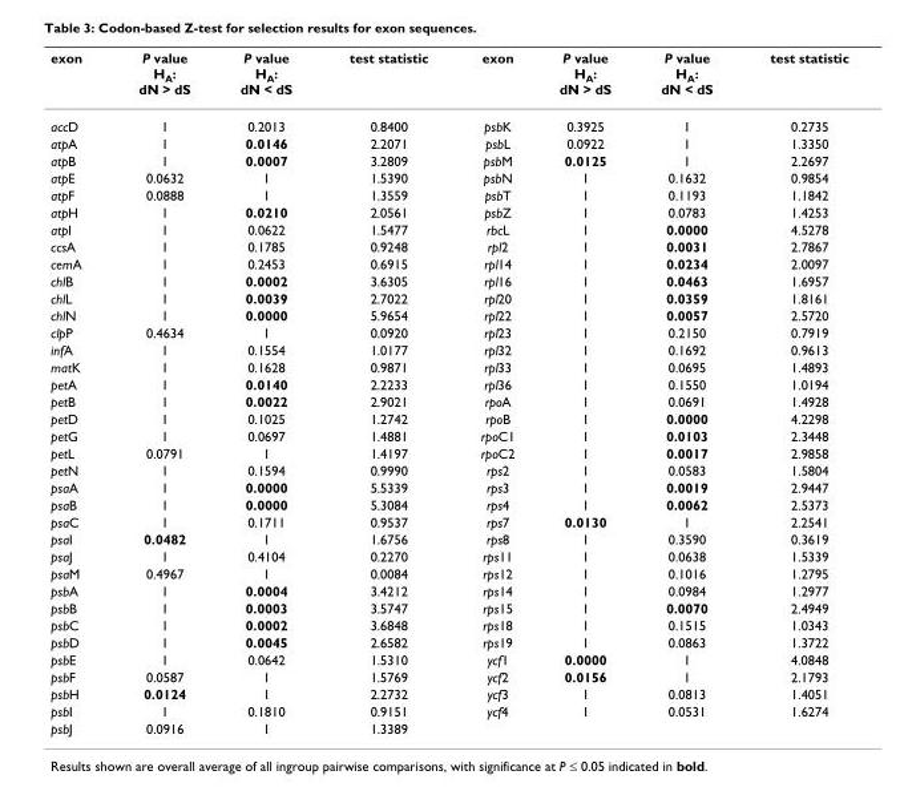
<table><thead><tr><td>exon</td><td>P value H<sub>A</sub>: dN &gt; dS</td><td>P value H<sub>A</sub>: dN &lt; dS</td><td>test statistic</td><td>exon</td><td>P value H<sub>A</sub>: dN &gt; dS</td><td>P value H<sub>A</sub>: dN &lt; dS</td><td>test statistic</td></tr></thead><tbody><tr><td>accD</td><td>1</td><td>0.2013</td><td>0.8400</td><td>psbK</td><td>0.3925</td><td>1</td><td>0.2735</td></tr><tr><td>atpA</td><td>1</td><td>0.0146</td><td>2.2071</td><td>psbL</td><td>0.0922</td><td>1</td><td>1.3350</td></tr><tr><td>atpB</td><td>1</td><td>0.0007</td><td>3.2809</td><td>psbM</td><td>0.0125</td><td>1</td><td>2.2697</td></tr><tr><td>atpE</td><td>0.0632</td><td>1</td><td>1.5390</td><td>psbN</td><td>1</td><td>0.1632</td><td>0.9854</td></tr><tr><td>atpF</td><td>0.0888</td><td>1</td><td>1.3559</td><td>psbT</td><td>1</td><td>0.1193</td><td>1.1842</td></tr><tr><td>atpH</td><td>1</td><td>0.0210</td><td>2.0561</td><td>psbZ</td><td>1</td><td>0.0783</td><td>1.4253</td></tr><tr><td>atpI</td><td>1</td><td>0.0622</td><td>1.5477</td><td>rbcL</td><td>1</td><td>0.0000</td><td>4.5278</td></tr><tr><td>ccsA</td><td>1</td><td>0.1785</td><td>0.9248</td><td>rpl2</td><td>1</td><td>0.0031</td><td>2.7867</td></tr><tr><td>cemA</td><td>1</td><td>0.2453</td><td>0.6915</td><td>rpl14</td><td>1</td><td>0.0234</td><td>2.0097</td></tr><tr><td>chlB</td><td>1</td><td>0.0002</td><td>3.6305</td><td>rpl16</td><td>1</td><td>0.0463</td><td>1.6957</td></tr><tr><td>chlL</td><td>1</td><td>0.0039</td><td>2.7022</td><td>rpl20</td><td>1</td><td>0.0359</td><td>1.8161</td></tr><tr><td>chlN</td><td>1</td><td>0.0000</td><td>5.9654</td><td>rpl22</td><td>1</td><td>0.0057</td><td>2.5720</td></tr><tr><td>clpP</td><td>0.4634</td><td>1</td><td>0.0920</td><td>rpl23</td><td>1</td><td>0.2150</td><td>0.7919</td></tr><tr><td>infA</td><td>1</td><td>0.1554</td><td>1.0177</td><td>rpl32</td><td>1</td><td>0.1692</td><td>0.9613</td></tr><tr><td>matK</td><td>1</td><td>0.1628</td><td>0.9871</td><td>rpl33</td><td>1</td><td>0.0695</td><td>1.4893</td></tr><tr><td>petA</td><td>1</td><td>0.0140</td><td>2.2233</td><td>rpl36</td><td>1</td><td>0.1550</td><td>1.0194</td></tr><tr><td>petB</td><td>1</td><td>0.0022</td><td>2.9021</td><td>rpoA</td><td>1</td><td>0.0691</td><td>1.4928</td></tr><tr><td>petD</td><td>1</td><td>0.1025</td><td>1.2742</td><td>rpoB</td><td>1</td><td>0.0000</td><td>4.2298</td></tr><tr><td>petG</td><td>1</td><td>0.0697</td><td>1.4881</td><td>rpoC1</td><td>1</td><td>0.0103</td><td>2.3448</td></tr><tr><td>petL</td><td>0.0791</td><td>1</td><td>1.4197</td><td>rpoC2</td><td>1</td><td>0.0017</td><td>2.9858</td></tr><tr><td>petN</td><td>1</td><td>0.1594</td><td>0.9990</td><td>rps2</td><td>1</td><td>0.0583</td><td>1.5804</td></tr><tr><td>psaA</td><td>1</td><td>0.0000</td><td>5.5339</td><td>rps3</td><td>1</td><td>0.0019</td><td>2.9447</td></tr><tr><td>psaB</td><td>1</td><td>0.0000</td><td>5.3084</td><td>rps4</td><td>1</td><td>0.0062</td><td>2.5373</td></tr><tr><td>psaC</td><td>1</td><td>0.1711</td><td>0.9537</td><td>rps7</td><td>0.0130</td><td>1</td><td>2.2541</td></tr><tr><td>psaI</td><td>0.0482</td><td>1</td><td>1.6756</td><td>rps8</td><td>1</td><td>0.3590</td><td>0.3619</td></tr><tr><td>psaJ</td><td>1</td><td>0.4104</td><td>0.2270</td><td>rps11</td><td>1</td><td>0.0638</td><td>1.5339</td></tr><tr><td>psaM</td><td>0.4967</td><td>1</td><td>0.0084</td><td>rps12</td><td>1</td><td>0.1016</td><td>1.2795</td></tr><tr><td>psbA</td><td>1</td><td>0.0004</td><td>3.4212</td><td>rps14</td><td>1</td><td>0.0984</td><td>1.2977</td></tr><tr><td>psbB</td><td>1</td><td>0.0003</td><td>3.5747</td><td>rps15</td><td>1</td><td>0.0070</td><td>2.4949</td></tr><tr><td>psbC</td><td>1</td><td>0.0002</td><td>3.6848</td><td>rps18</td><td>1</td><td>0.1515</td><td>1.0343</td></tr><tr><td>psbD</td><td>1</td><td>0.0045</td><td>2.6582</td><td>rps19</td><td>1</td><td>0.0863</td><td>1.3722</td></tr><tr><td>psbE</td><td>1</td><td>0.0642</td><td>1.5310</td><td>ycf1</td><td>0.0000</td><td>1</td><td>4.0848</td></tr><tr><td>psbF</td><td>0.0587</td><td>1</td><td>1.5769</td><td>ycf2</td><td>0.0156</td><td>1</td><td>2.1793</td></tr><tr><td>psbH</td><td>0.0124</td><td>1</td><td>2.2732</td><td>ycf3</td><td>1</td><td>0.0813</td><td>1.4051</td></tr><tr><td>psbI</td><td>1</td><td>0.1810</td><td>0.9151</td><td>ycf4</td><td>1</td><td>0.0531</td><td>1.6274</td></tr><tr><td>psbJ</td><td>0.0916</td><td>1</td><td>1.3389</td><td></td><td></td><td></td><td></td></tr></tbody></table>